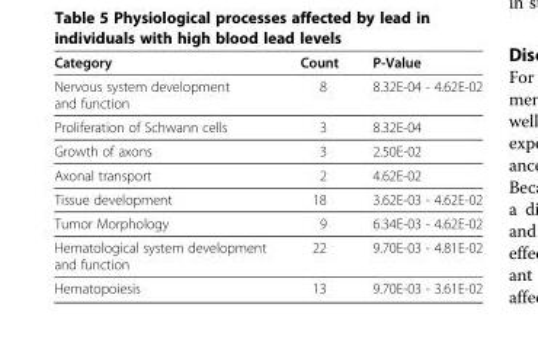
<table><thead><tr><td>Category</td><td>Count</td><td>P-Value</td></tr></thead><tbody><tr><td>Nervous system development and function</td><td>8</td><td>8.32E-04 - 4.62E-02</td></tr><tr><td>Proliferation of Schwann cells</td><td>3</td><td>8.32E-04</td></tr><tr><td>Growth of axons</td><td>3</td><td>2.50E-02</td></tr><tr><td>Axonal transport</td><td>2</td><td>4.62E-02</td></tr><tr><td>Tissue development</td><td>18</td><td>3.62E-03 - 4.62E-02</td></tr><tr><td>Tumor Morphology</td><td>9</td><td>6.34E-03 - 4.62E-02</td></tr><tr><td>Hematological system development and function</td><td>22</td><td>9.70E-03 - 4.81E-02</td></tr><tr><td>Hematopoiesis</td><td>13</td><td>9.70E-03 - 3.61E-02</td></tr></tbody></table>